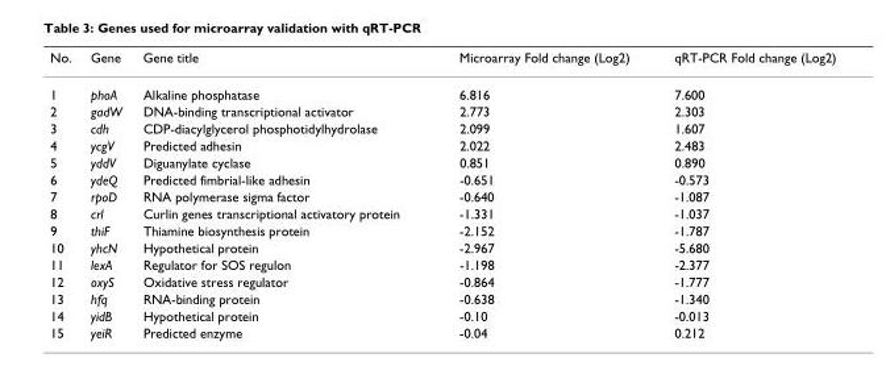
<table><thead><tr><td>No.</td><td>Gene</td><td>Gene title</td><td>Microarray Fold change (Log2)</td><td>qRT-PCR Fold change (Log2)</td></tr></thead><tbody><tr><td>1</td><td>phoA</td><td>Alkaline phosphatase</td><td>6.816</td><td>7.600</td></tr><tr><td>2</td><td>gadW</td><td>DNA-binding transcriptional activator</td><td>2.773</td><td>2.303</td></tr><tr><td>3</td><td>cdh</td><td>CDP-diacylglycerol phosphotidylhydrolase</td><td>2.099</td><td>1.607</td></tr><tr><td>4</td><td>ycgV</td><td>Predicted adhesin</td><td>2.022</td><td>2.483</td></tr><tr><td>5</td><td>yddV</td><td>Diguanylate cyclase</td><td>0.851</td><td>0.890</td></tr><tr><td>6</td><td>ydeQ</td><td>Predicted fimbrial-like adhesin</td><td>-0.651</td><td>-0.573</td></tr><tr><td>7</td><td>rpoD</td><td>RNA polymerase sigma factor</td><td>-0.640</td><td>-1.087</td></tr><tr><td>8</td><td>crl</td><td>Curlin genes transcriptional activatory protein</td><td>-1.331</td><td>-1.037</td></tr><tr><td>9</td><td>thiF</td><td>Thiamine biosynthesis protein</td><td>-2.152</td><td>-1.787</td></tr><tr><td>10</td><td>yhcN</td><td>Hypothetical protein</td><td>-2.967</td><td>-5.680</td></tr><tr><td>11</td><td>lexA</td><td>Regulator for SOS regulon</td><td>-1.198</td><td>-2.377</td></tr><tr><td>12</td><td>oxyS</td><td>Oxidative stress regulator</td><td>-0.864</td><td>-1.777</td></tr><tr><td>13</td><td>hfq</td><td>RNA-binding protein</td><td>-0.638</td><td>-1.340</td></tr><tr><td>14</td><td>yidB</td><td>Hypothetical protein</td><td>-0.10</td><td>-0.013</td></tr><tr><td>15</td><td>yeiR</td><td>Predicted enzyme</td><td>-0.04</td><td>0.212</td></tr></tbody></table>